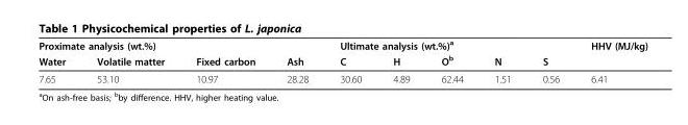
<table><thead><tr><td colspan="4">Proximate analysis (wt.%)</td><td colspan="5">Ultimate analysis (wt.%)<sup>a</sup></td><td rowspan="2">HHV (MJ/kg)</td></tr><tr><td>Water</td><td>Volatile matter</td><td>Fixed carbon</td><td>Ash</td><td>C</td><td>H</td><td>O<sup>b</sup></td><td>N</td><td>S</td></tr></thead><tbody><tr><td>7.65</td><td>53.10</td><td>10.97</td><td>28.28</td><td>30.60</td><td>4.89</td><td>62.44</td><td>1.51</td><td>0.56</td><td>6.41</td></tr></tbody></table>